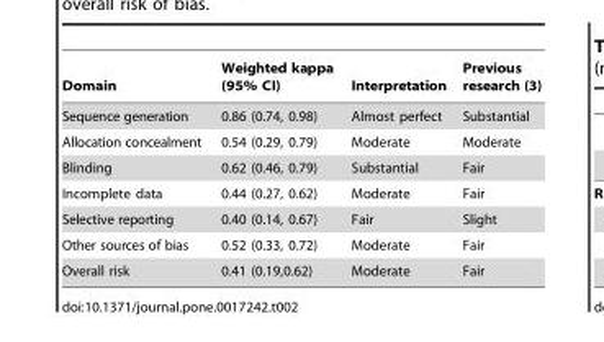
<table><thead><tr><td>Domain</td><td>Weighted kappa (95% CI)</td><td>Interpretation</td><td>Previous research (3)</td></tr></thead><tbody><tr><td>Sequence generation</td><td>0.86 (0.74, 0.98)</td><td>Almost perfect</td><td>Substantial</td></tr><tr><td>Allocation concealment</td><td>0.54 (0.29, 0.79)</td><td>Moderate</td><td>Moderate</td></tr><tr><td>Blinding</td><td>0.62 (0.46, 0.79)</td><td>Substantial</td><td>Fair</td></tr><tr><td>Incomplete data</td><td>0.44 (0.27, 0.62)</td><td>Moderate</td><td>Fair</td></tr><tr><td>Selective reporting</td><td>0.40 (0.14, 0.67)</td><td>Fair</td><td>Slight</td></tr><tr><td>Other sources of bias</td><td>0.52 (0.33, 0.72)</td><td>Moderate</td><td>Fair</td></tr><tr><td>Overall risk</td><td>0.41 (0.19,0.62)</td><td>Moderate</td><td>Fair</td></tr></tbody></table>